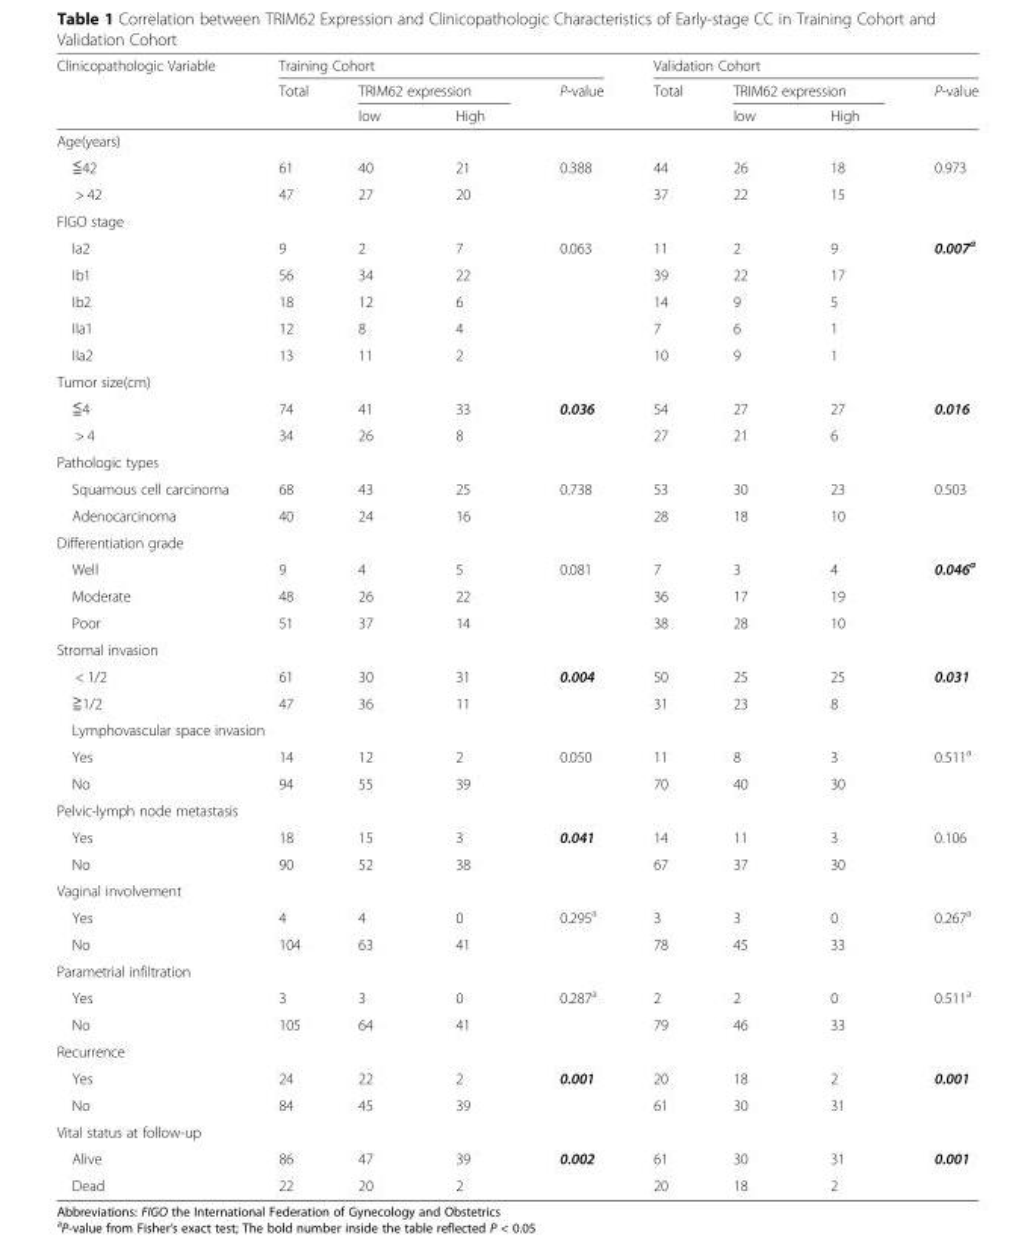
<table><thead><tr><td rowspan="3">Clinicopathologic Variable</td><td colspan="4">Training Cohort</td><td colspan="4">Validation Cohort</td></tr><tr><td rowspan="2">Total</td><td colspan="2">TRIM62 expression</td><td rowspan="2">P-value</td><td rowspan="2">Total</td><td colspan="2">TRIM62 expression</td><td rowspan="2">P-value</td></tr><tr><td>low</td><td>High</td><td>low</td><td>High</td></tr></thead><tbody><tr><td colspan="9">Age(years)</td></tr><tr><td>≦42</td><td>61</td><td>40</td><td>21</td><td>0.388</td><td>44</td><td>26</td><td>18</td><td>0.973</td></tr><tr><td>&gt; 42</td><td>47</td><td>27</td><td>20</td><td></td><td>37</td><td>22</td><td>15</td><td></td></tr><tr><td colspan="9">FIGO stage</td></tr><tr><td>Ia2</td><td>9</td><td>2</td><td>7</td><td>0.063</td><td>11</td><td>2</td><td>9</td><td>0.007<sup>a</sup></td></tr><tr><td>Ib1</td><td>56</td><td>34</td><td>22</td><td></td><td>39</td><td>22</td><td>17</td><td></td></tr><tr><td>Ib2</td><td>18</td><td>12</td><td>6</td><td></td><td>14</td><td>9</td><td>5</td><td></td></tr><tr><td>IIa1</td><td>12</td><td>8</td><td>4</td><td></td><td>7</td><td>6</td><td>1</td><td></td></tr><tr><td>IIa2</td><td>13</td><td>11</td><td>2</td><td></td><td>10</td><td>9</td><td>1</td><td></td></tr><tr><td colspan="9">Tumor size(cm)</td></tr><tr><td>≦4</td><td>74</td><td>41</td><td>33</td><td>0.036</td><td>54</td><td>27</td><td>27</td><td>0.016</td></tr><tr><td>&gt; 4</td><td>34</td><td>26</td><td>8</td><td></td><td>27</td><td>21</td><td>6</td><td></td></tr><tr><td colspan="9">Pathologic types</td></tr><tr><td>Squamous cell carcinoma</td><td>68</td><td>43</td><td>25</td><td>0.738</td><td>53</td><td>30</td><td>23</td><td>0.503</td></tr><tr><td>Adenocarcinoma</td><td>40</td><td>24</td><td>16</td><td></td><td>28</td><td>18</td><td>10</td><td></td></tr><tr><td colspan="9">Differentiation grade</td></tr><tr><td>Well</td><td>9</td><td>4</td><td>5</td><td>0.081</td><td>7</td><td>3</td><td>4</td><td>0.046<sup>a</sup></td></tr><tr><td>Moderate</td><td>48</td><td>26</td><td>22</td><td></td><td>36</td><td>17</td><td>19</td><td></td></tr><tr><td>Poor</td><td>51</td><td>37</td><td>14</td><td></td><td>38</td><td>28</td><td>10</td><td></td></tr><tr><td colspan="9">Stromal invasion</td></tr><tr><td>&lt; 1/2</td><td>61</td><td>30</td><td>31</td><td>0.004</td><td>50</td><td>25</td><td>25</td><td>0.031</td></tr><tr><td>≧1/2</td><td>47</td><td>36</td><td>11</td><td></td><td>31</td><td>23</td><td>8</td><td></td></tr><tr><td colspan="9">Lymphovascular space invasion</td></tr><tr><td>Yes</td><td>14</td><td>12</td><td>2</td><td>0.050</td><td>11</td><td>8</td><td>3</td><td>0.511<sup>a</sup></td></tr><tr><td>No</td><td>94</td><td>55</td><td>39</td><td></td><td>70</td><td>40</td><td>30</td><td></td></tr><tr><td colspan="9">Pelvic-lymph node metastasis</td></tr><tr><td>Yes</td><td>18</td><td>15</td><td>3</td><td>0.041</td><td>14</td><td>11</td><td>3</td><td>0.106</td></tr><tr><td>No</td><td>90</td><td>52</td><td>38</td><td></td><td>67</td><td>37</td><td>30</td><td></td></tr><tr><td colspan="9">Vaginal involvement</td></tr><tr><td>Yes</td><td>4</td><td>4</td><td>0</td><td>0.295<sup>a</sup></td><td>3</td><td>3</td><td>0</td><td>0.267<sup>a</sup></td></tr><tr><td>No</td><td>104</td><td>63</td><td>41</td><td></td><td>78</td><td>45</td><td>33</td><td></td></tr><tr><td colspan="9">Parametrial infiltration</td></tr><tr><td>Yes</td><td>3</td><td>3</td><td>0</td><td>0.287<sup>a</sup></td><td>2</td><td>2</td><td>0</td><td>0.511<sup>a</sup></td></tr><tr><td>No</td><td>105</td><td>64</td><td>41</td><td></td><td>79</td><td>46</td><td>33</td><td></td></tr><tr><td colspan="9">Recurrence</td></tr><tr><td>Yes</td><td>24</td><td>22</td><td>2</td><td>0.001</td><td>20</td><td>18</td><td>2</td><td>0.001</td></tr><tr><td>No</td><td>84</td><td>45</td><td>39</td><td></td><td>61</td><td>30</td><td>31</td><td></td></tr><tr><td colspan="9">Vital status at follow-up</td></tr><tr><td>Alive</td><td>86</td><td>47</td><td>39</td><td>0.002</td><td>61</td><td>30</td><td>31</td><td>0.001</td></tr><tr><td>Dead</td><td>22</td><td>20</td><td>2</td><td></td><td>20</td><td>18</td><td>2</td><td></td></tr></tbody></table>